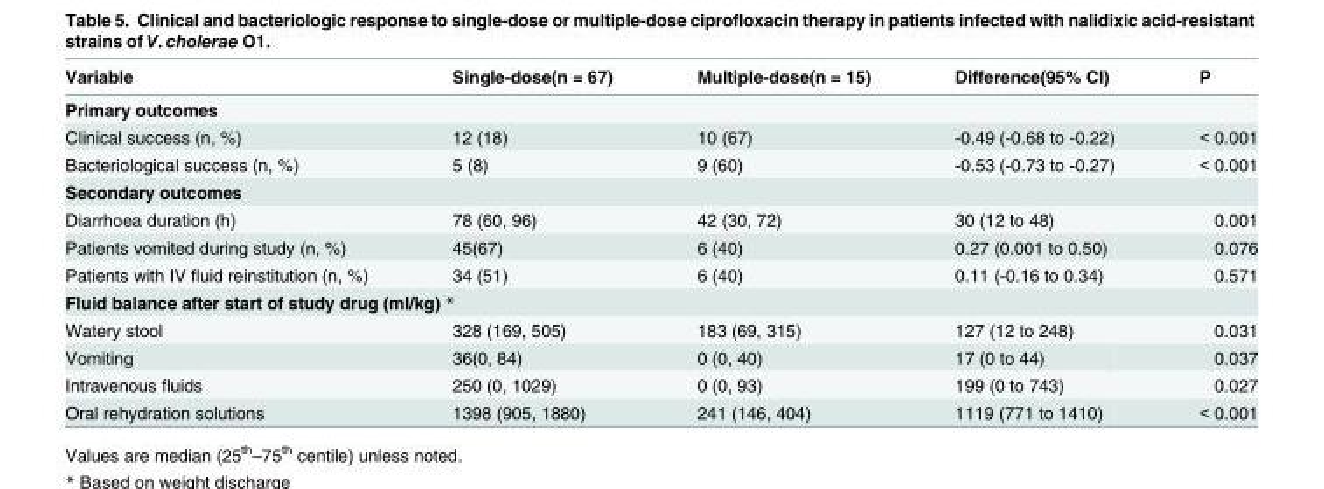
<table><thead><tr><td>Variable</td><td>Single-dose(n = 67)</td><td>Multiple-dose(n = 15)</td><td>Difference(95% CI)</td><td>P</td></tr></thead><tbody><tr><td colspan="5">Primary outcomes</td></tr><tr><td>Clinical success (n, %)</td><td>12 (18)</td><td>10 (67)</td><td>-0.49 (-0.68 to -0.22)</td><td>&lt; 0.001</td></tr><tr><td>Bacteriological success (n, %)</td><td>5 (8)</td><td>9 (60)</td><td>-0.53 (-0.73 to -0.27)</td><td>&lt; 0.001</td></tr><tr><td colspan="5">Secondary outcomes</td></tr><tr><td>Diarrhoea duration (h)</td><td>78 (60, 96)</td><td>42 (30, 72)</td><td>30 (12 to 48)</td><td>0.001</td></tr><tr><td>Patients vomited during study (n, %)</td><td>45(67)</td><td>6 (40)</td><td>0.27 (0.001 to 0.50)</td><td>0.076</td></tr><tr><td>Patients with IV fluid reinstitution (n, %)</td><td>34 (51)</td><td>6 (40)</td><td>0.11 (-0.16 to 0.34)</td><td>0.571</td></tr><tr><td colspan="5">Fluid balance after start of study drug (ml/kg) *</td></tr><tr><td>Watery stool</td><td>328 (169, 505)</td><td>183 (69, 315)</td><td>127 (12 to 248)</td><td>0.031</td></tr><tr><td>Vomiting</td><td>36(0, 84)</td><td>0 (0, 40)</td><td>17 (0 to 44)</td><td>0.037</td></tr><tr><td>Intravenous fluids</td><td>250 (0, 1029)</td><td>0 (0, 93)</td><td>199 (0 to 743)</td><td>0.027</td></tr><tr><td>Oral rehydration solutions</td><td>1398 (905, 1880)</td><td>241 (146, 404)</td><td>1119 (771 to 1410)</td><td>&lt; 0.001</td></tr></tbody></table>